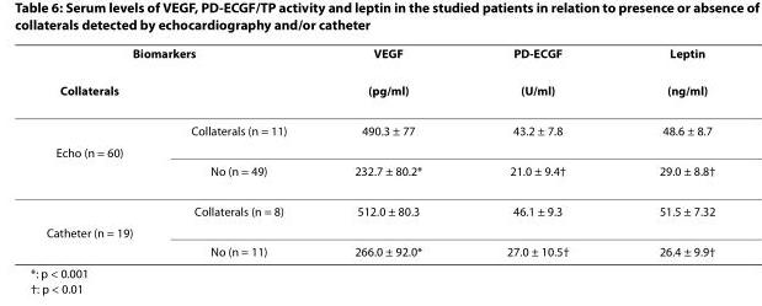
<table><thead><tr><td colspan="2">Biomarkers</td><td rowspan="2">VEGF (pg/ml)</td><td rowspan="2">PD-ECGF (U/ml)</td><td rowspan="2">Leptin (ng/ml)</td></tr><tr><td>Collaterals</td><td></td></tr></thead><tbody><tr><td></td><td>Collaterals (n = 11)</td><td>490.3 ± 77</td><td>43.2 ± 7.8</td><td>48.6 ± 8.7</td></tr><tr><td colspan="5">Echo (n = 60)</td></tr><tr><td></td><td>No (n = 49)</td><td>232.7 ± 80.2*</td><td>21.0 ± 9.4†</td><td>29.0 ± 8.8†</td></tr><tr><td></td><td>Collaterals (n = 8)</td><td>512.0 ± 80.3</td><td>46.1 ± 9.3</td><td>51.5 ± 7.32</td></tr><tr><td colspan="5">Catheter (n = 19)</td></tr><tr><td></td><td>No (n = 11)</td><td>266.0 ± 92.0*</td><td>27.0 ± 10.5†</td><td>26.4 ± 9.9†</td></tr></tbody></table>